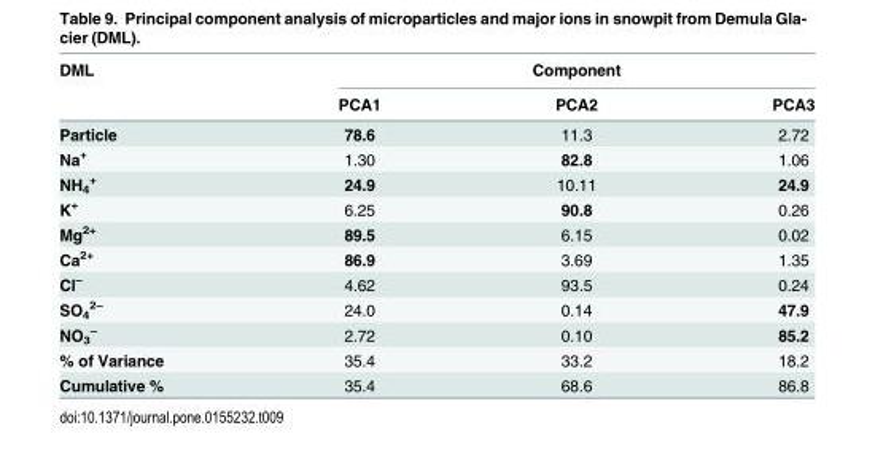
<table><thead><tr><td rowspan="2">DML</td><td colspan="3">Component</td></tr><tr><td>PCA1</td><td>PCA2</td><td>PCA3</td></tr></thead><tbody><tr><td>Particle</td><td>78.6</td><td>11.3</td><td>2.72</td></tr><tr><td>Na<sup>+</sup></td><td>1.30</td><td>82.8</td><td>1.06</td></tr><tr><td>NH<sub>4</sub> <sup>+</sup></td><td>24.9</td><td>10.11</td><td>24.9</td></tr><tr><td>K<sup>+</sup></td><td>6.25</td><td>90.8</td><td>0.26</td></tr><tr><td>Mg<sup>2+</sup></td><td>89.5</td><td>6.15</td><td>0.02</td></tr><tr><td>Ca<sup>2+</sup></td><td>86.9</td><td>3.69</td><td>1.35</td></tr><tr><td>Cl<sup>–</sup></td><td>4.62</td><td>93.5</td><td>0.24</td></tr><tr><td>SO<sub>4</sub> <sup>2–</sup></td><td>24.0</td><td>0.14</td><td>47.9</td></tr><tr><td>NO<sub>3</sub> <sup>–</sup></td><td>2.72</td><td>0.10</td><td>85.2</td></tr><tr><td>% of Variance</td><td>35.4</td><td>33.2</td><td>18.2</td></tr><tr><td>Cumulative %</td><td>35.4</td><td>68.6</td><td>86.8</td></tr></tbody></table>